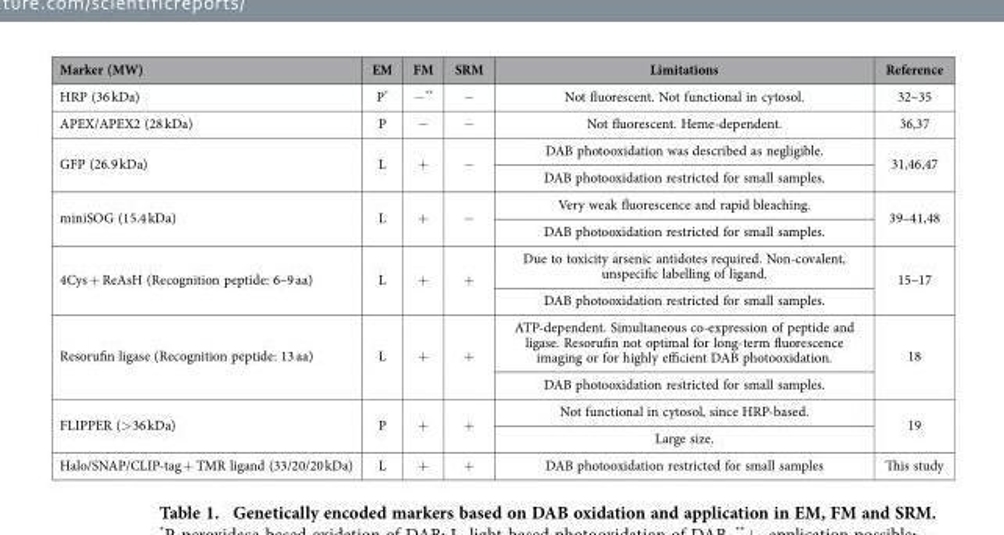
<table><thead><tr><td>Marker (MW)</td><td>EM</td><td>FM</td><td>SRM</td><td>Limitations</td><td>Reference</td></tr></thead><tbody><tr><td>HRP (36 kDa)</td><td>P*</td><td>− **</td><td>−</td><td>Not fluorescent. Not functional in cytosol.</td><td>32–35</td></tr><tr><td>APEX/APEX2 (28 kDa)</td><td>P</td><td>−</td><td>−</td><td>Not fluorescent. Heme-dependent.</td><td>36,37</td></tr><tr><td rowspan="2">GFP (26.9 kDa)</td><td rowspan="2">L</td><td rowspan="2">+</td><td rowspan="2">−</td><td>DAB photooxidation was described as negligible.</td><td rowspan="2">31,46,47</td></tr><tr><td>DAB photooxidation restricted for small samples.</td></tr><tr><td rowspan="2">miniSOG (15.4 kDa)</td><td rowspan="2">L</td><td rowspan="2">+</td><td rowspan="2">−</td><td>Very weak fluorescence and rapid bleaching.</td><td rowspan="2">39–41,48</td></tr><tr><td>DAB photooxidation restricted for small samples.</td></tr><tr><td rowspan="2">4Cys + ReAsH (Recognition peptide: 6–9 aa)</td><td rowspan="2">L</td><td rowspan="2">+</td><td rowspan="2">+</td><td>Due to toxicity arsenic antidotes required. Non-covalent, unspecific labelling of ligand.</td><td rowspan="2">15–17</td></tr><tr><td>DAB photooxidation restricted for small samples.</td></tr><tr><td rowspan="2">Resorufin ligase (Recognition peptide: 13 aa)</td><td rowspan="2">L</td><td rowspan="2">+</td><td rowspan="2">+</td><td>ATP-dependent. Simultaneous co-expression of peptide and ligase. Resorufin not optimal for long-term fluorescence imaging or for highly efficient DAB photooxidation.</td><td rowspan="2">18</td></tr><tr><td>DAB photooxidation restricted for small samples.</td></tr><tr><td rowspan="2">FLIPPER (&gt; 36 kDa)</td><td rowspan="2">P</td><td rowspan="2">+</td><td rowspan="2">+</td><td>Not functional in cytosol, since HRP-based.</td><td rowspan="2">19</td></tr><tr><td>Large size.</td></tr><tr><td>Halo/SNAP/CLIP-tag + TMR ligand (33/20/20 kDa)</td><td>L</td><td>+</td><td>+</td><td>DAB photooxidation restricted for small samples</td><td>This study</td></tr></tbody></table>